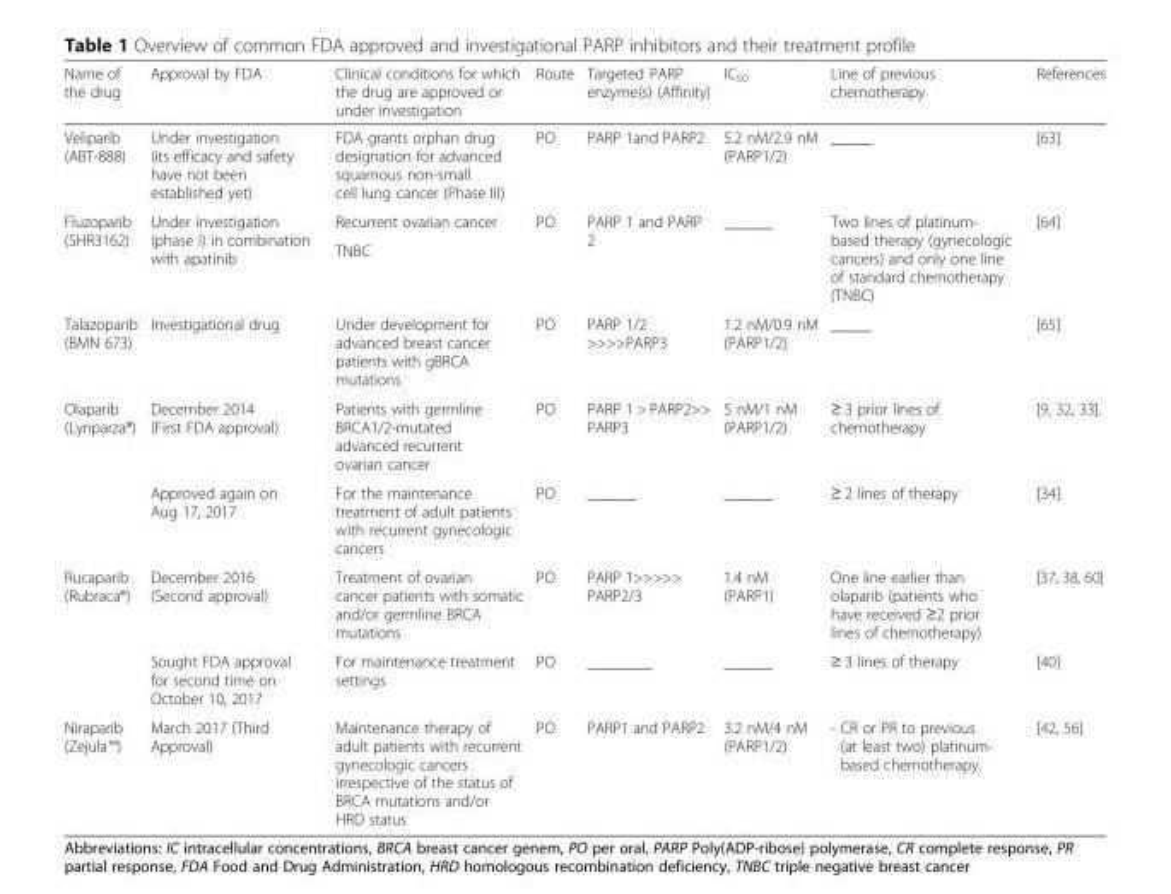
<table><thead><tr><td>Name of the drug</td><td>Approval by FDA</td><td>Clinical conditions for which the drug are approved or under investigation</td><td>Route</td><td>Targeted PARP enzyme(s) (Affinity)</td><td>IC<sub>50</sub></td><td>Line of previous chemotherapy</td><td>References</td></tr></thead><tbody><tr><td>Veliparib (ABT-888)</td><td>Under investigation (its efficacy and safety have not been established yet)</td><td>FDA grants orphan drug designation for advanced squamous non-small cell lung cancer (Phase III)</td><td>PO</td><td>PARP 1and PARP2</td><td>5.2 nM/2.9 nM (PARP1/2)</td><td>_____</td><td>[63]</td></tr><tr><td rowspan="2">Fluzoparib (SHR3162)</td><td rowspan="2">Under investigation (phase I) in combination with apatinib</td><td>Recurrent ovarian cancer</td><td rowspan="2">PO</td><td rowspan="2">PARP 1 and PARP 2</td><td rowspan="2">______</td><td rowspan="2">Two lines of platinum- based therapy (gynecologic cancers) and only one line of standard chemotherapy (TNBC)</td><td rowspan="2">[64]</td></tr><tr><td>TNBC</td></tr><tr><td>Talazoparib (BMN 673)</td><td>Investigational drug</td><td>Under development for advanced breast cancer patients with gBRCA mutations</td><td>PO</td><td>PARP 1/2 &gt;&gt;&gt;&gt;PARP3</td><td>1.2 nM/0.9 nM (PARP1/2)</td><td>_____</td><td>[65]</td></tr><tr><td rowspan="2">Olaparib (Lynparza®)</td><td>December 2014 (First FDA approval)</td><td>Patients with germline BRCA1/2-mutated advanced recurrent ovarian cancer</td><td>PO</td><td>PARP 1 &gt; PARP2&gt;&gt; PARP3</td><td>5 nM/1 nM (PARP1/2)</td><td>≥ 3 prior lines of chemotherapy</td><td>[9, 32, 33].</td></tr><tr><td>Approved again on Aug 17, 2017</td><td>For the maintenance treatment of adult patients with recurrent gynecologic cancers</td><td>PO</td><td>______</td><td>______</td><td>≥ 2 lines of therapy</td><td>[34]</td></tr><tr><td rowspan="2">Rucaparib (Rubraca®)</td><td>December 2016 (Second approval)</td><td>Treatment of ovarian cancer patients with somatic and/or germline BRCA mutations</td><td>PO</td><td>PARP 1&gt;&gt;&gt;&gt;&gt; PARP2/3</td><td>1.4 nM (PARP1)</td><td>One line earlier than olaparib (patients who have received ≥2 prior lines of chemotherapy)</td><td>[37, 38, 60]</td></tr><tr><td>Sought FDA approval for second time on October 10, 2017</td><td>For maintenance treatment settings</td><td>PO</td><td>________</td><td>______</td><td>≥ 3 lines of therapy</td><td>[40]</td></tr><tr><td>Niraparib (Zejula™)</td><td>March 2017 (Third Approval)</td><td>Maintenance therapy of adult patients with recurrent gynecologic cancers irrespective of the status of BRCA mutations and/or HRD status</td><td>PO</td><td>PARP1 and PARP2</td><td>3.2 nM/4 nM (PARP1/2)</td><td>- CR or PR to previous (at least two) platinum- based chemotherapy.</td><td>[42, 56]</td></tr></tbody></table>